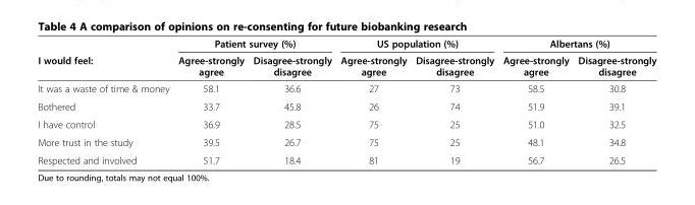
<table><thead><tr><td rowspan="2">I would feel:</td><td colspan="2">Patient survey (%)</td><td colspan="2">US population (%)</td><td colspan="2">Albertans (%)</td></tr><tr><td>Agree-strongly agree</td><td>Disagree-strongly disagree</td><td>Agree-strongly agree</td><td>Disagree-strongly disagree</td><td>Agree-strongly agree</td><td>Disagree-strongly disagree</td></tr></thead><tbody><tr><td>It was a waste of time &amp; money</td><td>58.1</td><td>36.6</td><td>27</td><td>73</td><td>58.5</td><td>30.8</td></tr><tr><td>Bothered</td><td>33.7</td><td>45.8</td><td>26</td><td>74</td><td>51.9</td><td>39.1</td></tr><tr><td>I have control</td><td>36.9</td><td>28.5</td><td>75</td><td>25</td><td>51.0</td><td>32.5</td></tr><tr><td>More trust in the study</td><td>39.5</td><td>26.7</td><td>75</td><td>25</td><td>48.1</td><td>34.8</td></tr><tr><td>Respected and involved</td><td>51.7</td><td>18.4</td><td>81</td><td>19</td><td>56.7</td><td>26.5</td></tr></tbody></table>